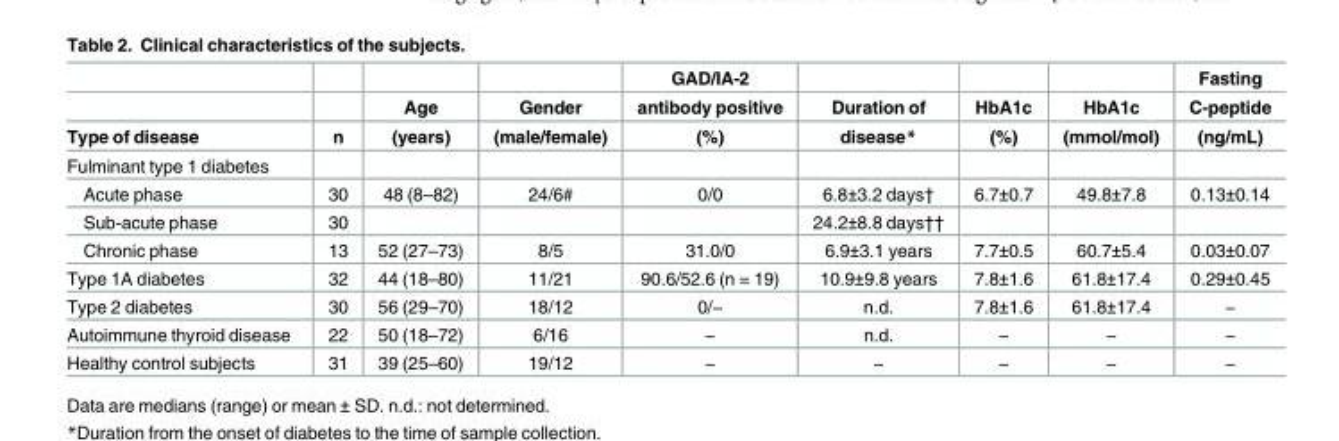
<table><thead><tr><td rowspan="3">Type of disease</td><td rowspan="3">n</td><td rowspan="3">Age (years)</td><td rowspan="3">Gender (male/female)</td><td rowspan="3">GAD/IA-2 antibody positive (%)</td><td rowspan="3">Duration of disease*</td><td rowspan="3">HbA1c (%)</td><td rowspan="3">HbA1c (mmol/mol)</td><td rowspan="3">Fasting C-peptide (ng/mL)</td></tr><tr></tr><tr></tr></thead><tbody><tr><td colspan="9">Fulminant type 1 diabetes</td></tr><tr><td>Acute phase</td><td>30</td><td>48 (8–82)</td><td>24/6#</td><td>0/0</td><td>6.8±3.2 days†</td><td>6.7±0.7</td><td>49.8±7.8</td><td>0.13±0.14</td></tr><tr><td>Sub-acute phase</td><td>30</td><td></td><td></td><td></td><td>24.2±8.8 days††</td><td></td><td></td><td></td></tr><tr><td>Chronic phase</td><td>13</td><td>52 (27–73)</td><td>8/5</td><td>31.0/0</td><td>6.9±3.1 years</td><td>7.7±0.5</td><td>60.7±5.4</td><td>0.03±0.07</td></tr><tr><td>Type 1A diabetes</td><td>32</td><td>44 (18–80)</td><td>11/21</td><td>90.6/52.6 (n = 19)</td><td>10.9±9.8 years</td><td>7.8±1.6</td><td>61.8±17.4</td><td>0.29±0.45</td></tr><tr><td>Type 2 diabetes</td><td>30</td><td>56 (29–70)</td><td>18/12</td><td>0/−</td><td>n.d.</td><td>7.8±1.6</td><td>61.8±17.4</td><td>−</td></tr><tr><td>Autoimmune thyroid disease</td><td>22</td><td>50 (18–72)</td><td>6/16</td><td>−</td><td>n.d.</td><td>−</td><td>−</td><td>−</td></tr><tr><td>Healthy control subjects</td><td>31</td><td>39 (25–60)</td><td>19/12</td><td>−</td><td>−</td><td>−</td><td>−</td><td>−</td></tr></tbody></table>